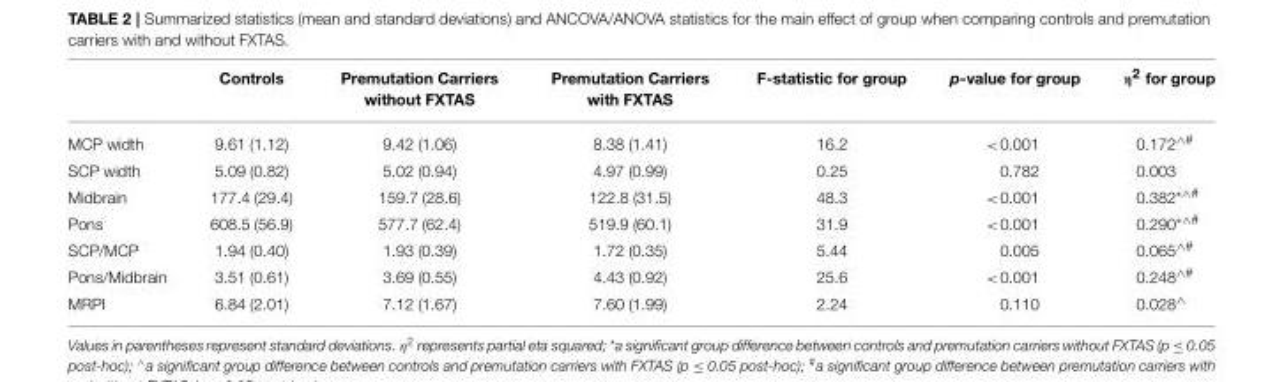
<table><thead><tr><td></td><td>Controls</td><td>Premutation Carriers without FXTAS</td><td>Premutation Carriers with FXTAS</td><td>F-statistic for group</td><td>p-value for group</td><td>η<sup>2</sup> for group</td></tr></thead><tbody><tr><td>MCP width</td><td>9.61 (1.12)</td><td>9.42 (1.06)</td><td>8.38 (1.41)</td><td>16.2</td><td>&lt;0.001</td><td>0.172<sup>∧#</sup></td></tr><tr><td>SCP width</td><td>5.09 (0.82)</td><td>5.02 (0.94)</td><td>4.97 (0.99)</td><td>0.25</td><td>0.782</td><td>0.003</td></tr><tr><td>Midbrain</td><td>177.4 (29.4)</td><td>159.7 (28.6)</td><td>122.8 (31.5)</td><td>48.3</td><td>&lt;0.001</td><td>0.382<sup>*∧#</sup></td></tr><tr><td>Pons</td><td>608.5 (56.9)</td><td>577.7 (62.4)</td><td>519.9 (60.1)</td><td>31.9</td><td>&lt;0.001</td><td>0.290<sup>*∧#</sup></td></tr><tr><td>SCP/MCP</td><td>1.94 (0.40)</td><td>1.93 (0.39)</td><td>1.72 (0.35)</td><td>5.44</td><td>0.005</td><td>0.065<sup>∧#</sup></td></tr><tr><td>Pons/Midbrain</td><td>3.51 (0.61)</td><td>3.69 (0.55)</td><td>4.43 (0.92)</td><td>25.6</td><td>&lt;0.001</td><td>0.248<sup>∧#</sup></td></tr><tr><td>MRPI</td><td>6.84 (2.01)</td><td>7.12 (1.67)</td><td>7.60 (1.99)</td><td>2.24</td><td>0.110</td><td>0.028<sup>∧</sup></td></tr></tbody></table>